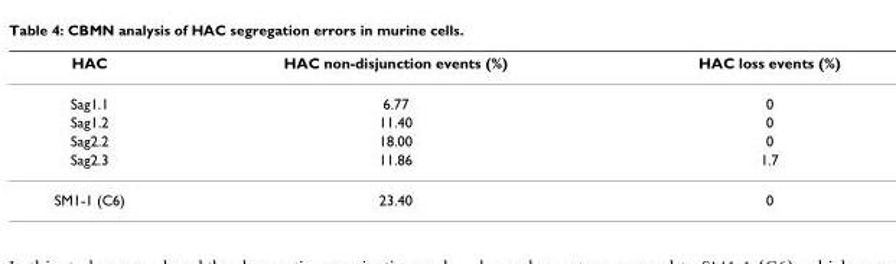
<table><thead><tr><td>HAC</td><td>HAC non-disjunction events (%)</td><td>HAC loss events (%)</td></tr></thead><tbody><tr><td>Sag1.1</td><td>6.77</td><td>0</td></tr><tr><td>Sag1.2</td><td>11.40</td><td>0</td></tr><tr><td>Sag2.2</td><td>18.00</td><td>0</td></tr><tr><td>Sag2.3</td><td>11.86</td><td>1.7</td></tr><tr><td>SM1-1 (C6)</td><td>23.40</td><td>0</td></tr></tbody></table>